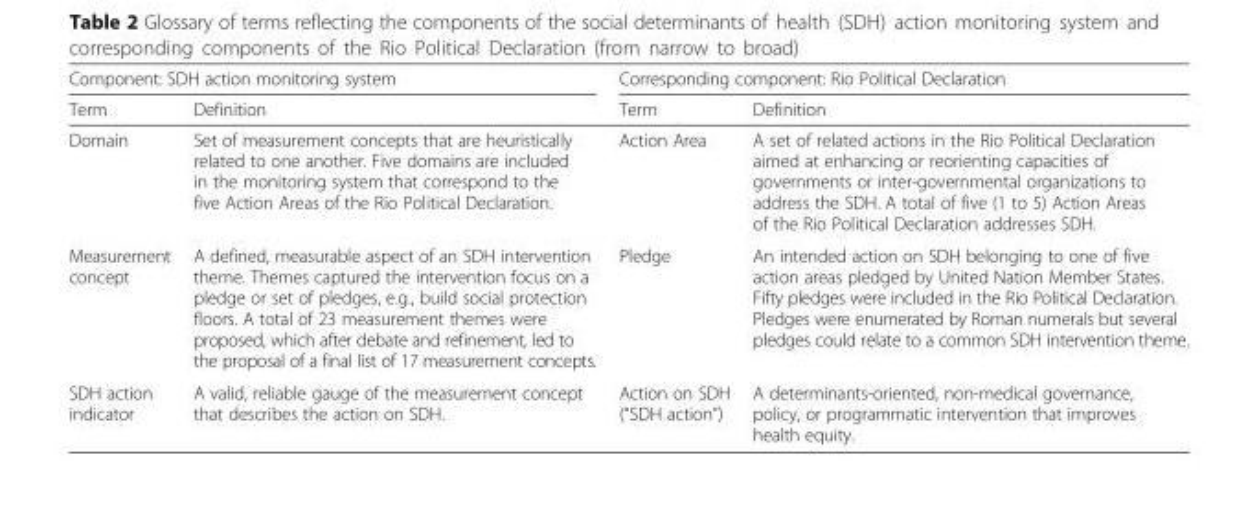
<table><thead><tr><td colspan="2">Component: SDH action monitoring system</td><td colspan="2">Corresponding component: Rio Political Declaration</td></tr><tr><td>Term</td><td>Definition</td><td>Term</td><td>Definition</td></tr></thead><tbody><tr><td>Domain</td><td>Set of measurement concepts that are heuristically related to one another. Five domains are included in the monitoring system that correspond to the five Action Areas of the Rio Political Declaration.</td><td>Action Area</td><td>A set of related actions in the Rio Political Declaration aimed at enhancing or reorienting capacities of governments or inter-governmental organizations to address the SDH. A total of five (1 to 5) Action Areas of the Rio Political Declaration addresses SDH.</td></tr><tr><td>Measurement concept</td><td>A defined, measurable aspect of an SDH intervention theme. Themes captured the intervention focus on a pledge or set of pledges, e.g., build social protection floors. A total of 23 measurement themes were proposed, which after debate and refinement, led to the proposal of a final list of 17 measurement concepts.</td><td>Pledge</td><td>An intended action on SDH belonging to one of five action areas pledged by United Nation Member States. Fifty pledges were included in the Rio Political Declaration. Pledges were enumerated by Roman numerals but several pledges could relate to a common SDH intervention theme.</td></tr><tr><td>SDH action indicator</td><td>A valid, reliable gauge of the measurement concept that describes the action on SDH.</td><td>Action on SDH (“SDH action”)</td><td>A determinants-oriented, non-medical governance, policy, or programmatic intervention that improves health equity.</td></tr></tbody></table>